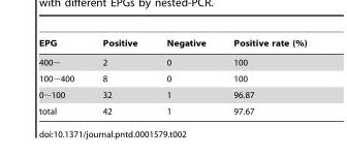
<table><thead><tr><td>EPG</td><td>Positive</td><td>Negative</td><td>Positive rate (%)</td></tr></thead><tbody><tr><td>400∼</td><td>2</td><td>0</td><td>100</td></tr><tr><td>100∼400</td><td>8</td><td>0</td><td>100</td></tr><tr><td>0∼100</td><td>32</td><td>1</td><td>96.87</td></tr><tr><td>total</td><td>42</td><td>1</td><td>97.67</td></tr></tbody></table>